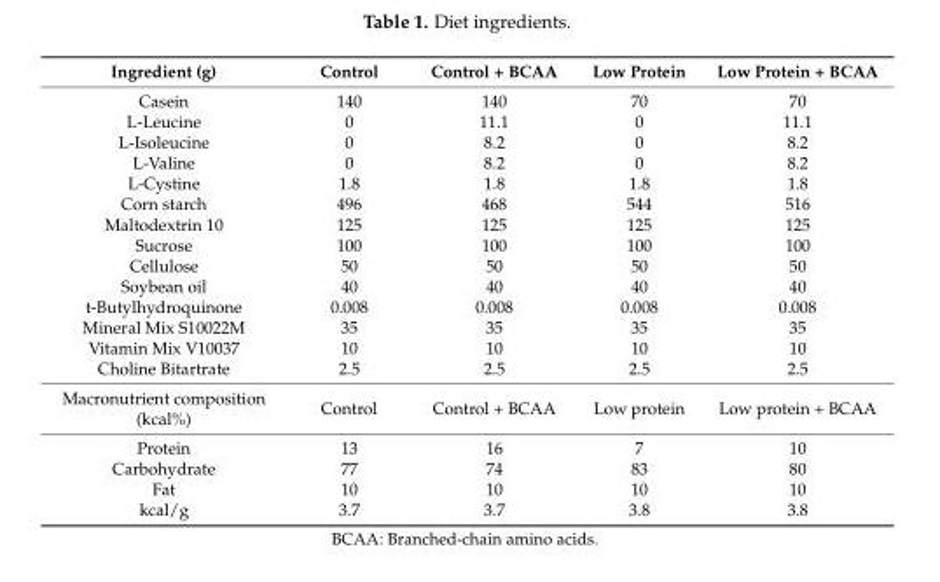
<table><thead><tr><td>Ingredient (g)</td><td>Control</td><td>Control + BCAA</td><td>Low Protein</td><td>Low Protein + BCAA</td></tr></thead><tbody><tr><td>Casein</td><td>140</td><td>140</td><td>70</td><td>70</td></tr><tr><td>L-Leucine</td><td>0</td><td>11.1</td><td>0</td><td>11.1</td></tr><tr><td>L-Isoleucine</td><td>0</td><td>8.2</td><td>0</td><td>8.2</td></tr><tr><td>L-Valine</td><td>0</td><td>8.2</td><td>0</td><td>8.2</td></tr><tr><td>L-Cystine</td><td>1.8</td><td>1.8</td><td>1.8</td><td>1.8</td></tr><tr><td>Corn starch</td><td>496</td><td>468</td><td>544</td><td>516</td></tr><tr><td>Maltodextrin 10</td><td>125</td><td>125</td><td>125</td><td>125</td></tr><tr><td>Sucrose</td><td>100</td><td>100</td><td>100</td><td>100</td></tr><tr><td>Cellulose</td><td>50</td><td>50</td><td>50</td><td>50</td></tr><tr><td>Soybean oil</td><td>40</td><td>40</td><td>40</td><td>40</td></tr><tr><td>t-Butylhydroquinone</td><td>0.008</td><td>0.008</td><td>0.008</td><td>0.008</td></tr><tr><td>Mineral Mix S10022M</td><td>35</td><td>35</td><td>35</td><td>35</td></tr><tr><td>Vitamin Mix V10037</td><td>10</td><td>10</td><td>10</td><td>10</td></tr><tr><td>Choline Bitartrate</td><td>2.5</td><td>2.5</td><td>2.5</td><td>2.5</td></tr><tr><td>Macronutrient composition (kcal%)</td><td>Control</td><td>Control + BCAA</td><td>Low protein</td><td>Low protein + BCAA</td></tr><tr><td>Protein</td><td>13</td><td>16</td><td>7</td><td>10</td></tr><tr><td>Carbohydrate</td><td>77</td><td>74</td><td>83</td><td>80</td></tr><tr><td>Fat</td><td>10</td><td>10</td><td>10</td><td>10</td></tr><tr><td>kcal/g</td><td>3.7</td><td>3.7</td><td>3.8</td><td>3.8</td></tr></tbody></table>